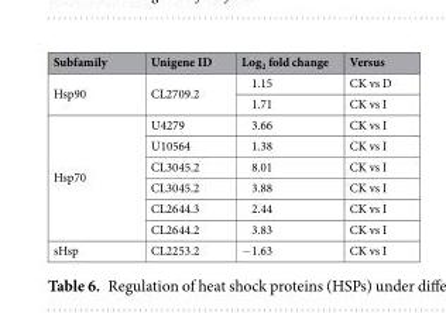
<table><thead><tr><td>Subfamily</td><td>Unigene ID</td><td>Log<sub>2</sub> fold change</td><td>Versus</td></tr></thead><tbody><tr><td rowspan="2">Hsp90</td><td rowspan="2">CL2709.2</td><td>1.15</td><td>CK vs D</td></tr><tr><td>1.71</td><td>CK vs I</td></tr><tr><td rowspan="6">Hsp70</td><td>U4279</td><td>3.66</td><td>CK vs I</td></tr><tr><td>U10564</td><td>1.38</td><td>CK vs I</td></tr><tr><td>CL3045.2</td><td>8.01</td><td>CK vs I</td></tr><tr><td>CL3045.2</td><td>3.88</td><td>CK vs I</td></tr><tr><td>CL2644.3</td><td>2.44</td><td>CK vs I</td></tr><tr><td>CL2644.2</td><td>3.83</td><td>CK vs I</td></tr><tr><td>sHsp</td><td>CL2253.2</td><td>−1.63</td><td>CK vs I</td></tr></tbody></table>